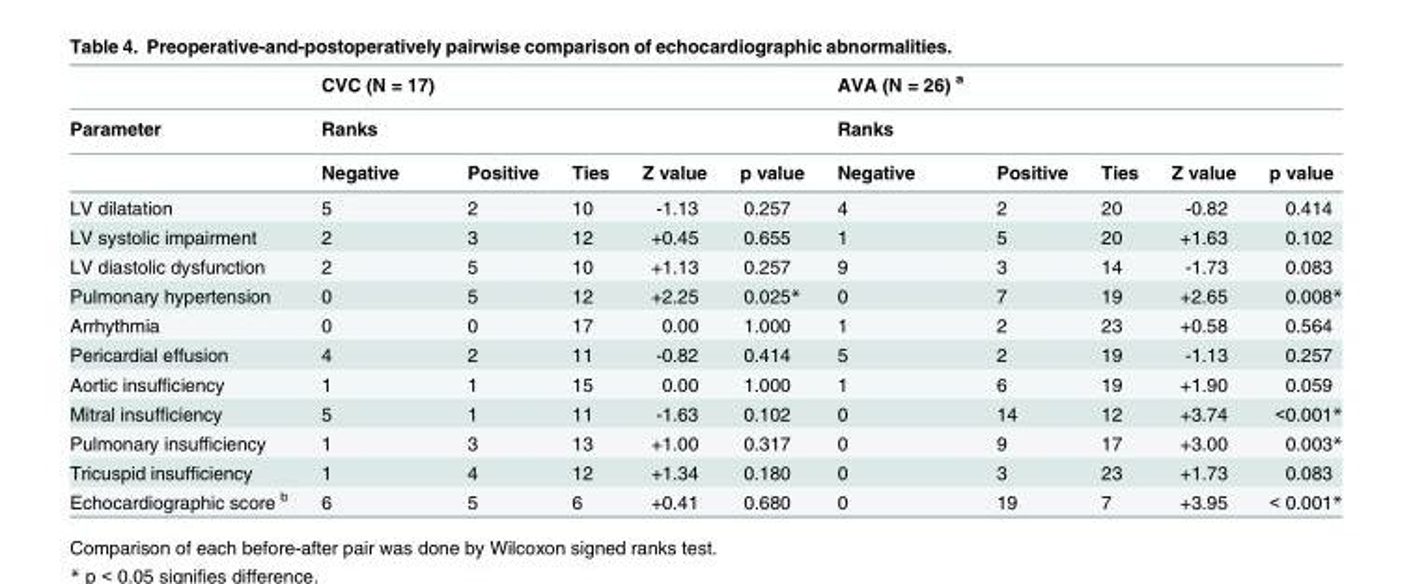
<table><thead><tr><td rowspan="3">Parameter</td><td rowspan="3">CVC (N = 17) Ranks Negative</td><td rowspan="3">Positive</td><td rowspan="3">Ties</td><td rowspan="3">Z value</td><td rowspan="3">p value</td><td rowspan="3">AVA (N = 26) <sup>a</sup> Ranks Negative</td><td rowspan="3">Positive</td><td rowspan="3">Ties</td><td rowspan="3">Z value</td><td rowspan="3">p value</td></tr><tr></tr><tr></tr></thead><tbody><tr><td>LV dilatation</td><td>5</td><td>2</td><td>10</td><td>-1.13</td><td>0.257</td><td>4</td><td>2</td><td>20</td><td>-0.82</td><td>0.414</td></tr><tr><td>LV systolic impairment</td><td>2</td><td>3</td><td>12</td><td>+0.45</td><td>0.655</td><td>1</td><td>5</td><td>20</td><td>+1.63</td><td>0.102</td></tr><tr><td>LV diastolic dysfunction</td><td>2</td><td>5</td><td>10</td><td>+1.13</td><td>0.257</td><td>9</td><td>3</td><td>14</td><td>-1.73</td><td>0.083</td></tr><tr><td>Pulmonary hypertension</td><td>0</td><td>5</td><td>12</td><td>+2.25</td><td>0.025*</td><td>0</td><td>7</td><td>19</td><td>+2.65</td><td>0.008*</td></tr><tr><td>Arrhythmia</td><td>0</td><td>0</td><td>17</td><td>0.00</td><td>1.000</td><td>1</td><td>2</td><td>23</td><td>+0.58</td><td>0.564</td></tr><tr><td>Pericardial effusion</td><td>4</td><td>2</td><td>11</td><td>-0.82</td><td>0.414</td><td>5</td><td>2</td><td>19</td><td>-1.13</td><td>0.257</td></tr><tr><td>Aortic insufficiency</td><td>1</td><td>1</td><td>15</td><td>0.00</td><td>1.000</td><td>1</td><td>6</td><td>19</td><td>+1.90</td><td>0.059</td></tr><tr><td>Mitral insufficiency</td><td>5</td><td>1</td><td>11</td><td>-1.63</td><td>0.102</td><td>0</td><td>14</td><td>12</td><td>+3.74</td><td>&lt;0.001*</td></tr><tr><td>Pulmonary insufficiency</td><td>1</td><td>3</td><td>13</td><td>+1.00</td><td>0.317</td><td>0</td><td>9</td><td>17</td><td>+3.00</td><td>0.003*</td></tr><tr><td>Tricuspid insufficiency</td><td>1</td><td>4</td><td>12</td><td>+1.34</td><td>0.180</td><td>0</td><td>3</td><td>23</td><td>+1.73</td><td>0.083</td></tr><tr><td>Echocardiographic score <sup>b</sup></td><td>6</td><td>5</td><td>6</td><td>+0.41</td><td>0.680</td><td>0</td><td>19</td><td>7</td><td>+3.95</td><td>&lt; 0.001*</td></tr></tbody></table>